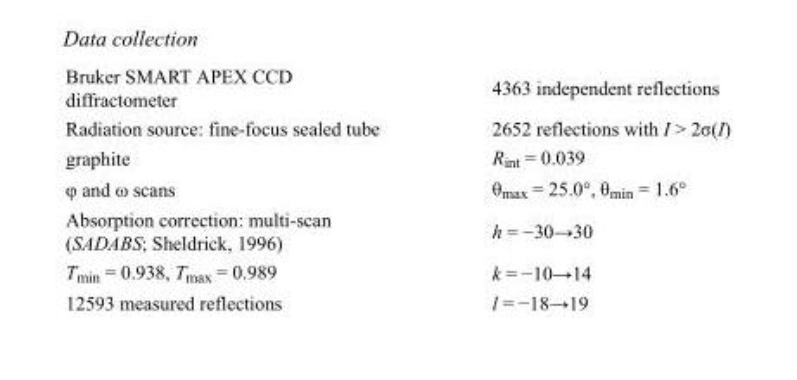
<table><tbody><tr><td>Bruker SMART APEX CCD diffractometer</td><td>4363 independent reflections</td></tr><tr><td>Radiation source: fine-focus sealed tube</td><td>2652 reflections with I &gt; 2σ(I)</td></tr><tr><td>graphite</td><td>R<sub>int</sub> = 0.039</td></tr><tr><td>φ and ω scans</td><td>θ<sub>max</sub> = 25.0°, θ<sub>min</sub> = 1.6°</td></tr><tr><td>Absorption correction: multi-scan (SADABS; Sheldrick, 1996)</td><td>h = −30→30</td></tr><tr><td>T<sub>min</sub> = 0.938, T<sub>max</sub> = 0.989</td><td>k = −10→14</td></tr><tr><td>12593 measured reflections</td><td>l = −18→19</td></tr></tbody></table>